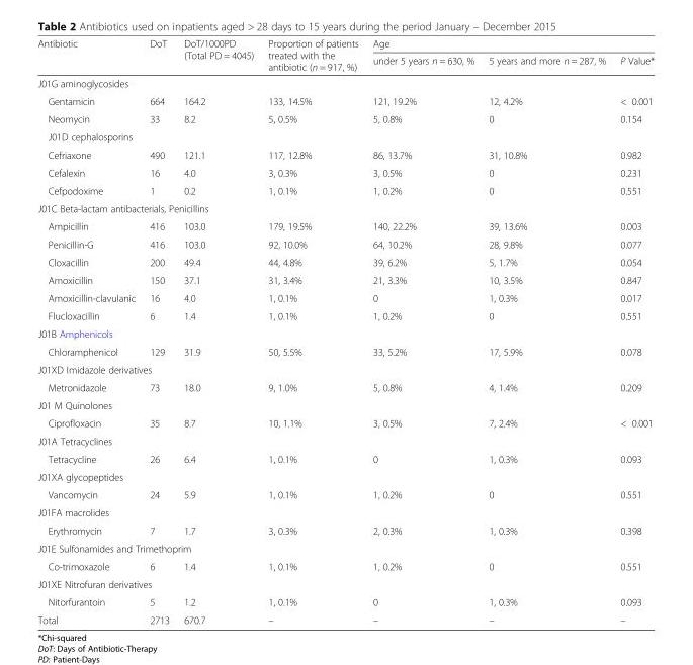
<table><thead><tr><td rowspan="2">Antibiotic</td><td rowspan="2">DoT</td><td rowspan="2">DoT/1000PD (Total PD = 4045)</td><td rowspan="2">Proportion of patients treated with the antibiotic (n = 917, %)</td><td colspan="3">Age</td></tr><tr><td>under 5 years n = 630, %</td><td>5 years and more n = 287, %</td><td>P Value*</td></tr></thead><tbody><tr><td colspan="7">J01G aminoglycosides</td></tr><tr><td>Gentamicin</td><td>664</td><td>164.2</td><td>133, 14.5%</td><td>121, 19.2%</td><td>12, 4.2%</td><td>&lt; 0.001</td></tr><tr><td>Neomycin</td><td>33</td><td>8.2</td><td>5, 0.5%</td><td>5, 0.8%</td><td>0</td><td>0.154</td></tr><tr><td colspan="7">J01D cephalosporins</td></tr><tr><td>Cefriaxone</td><td>490</td><td>121.1</td><td>117, 12.8%</td><td>86, 13.7%</td><td>31, 10.8%</td><td>0.982</td></tr><tr><td>Cefalexin</td><td>16</td><td>4.0</td><td>3, 0.3%</td><td>3, 0.5%</td><td>0</td><td>0.231</td></tr><tr><td>Cefpodoxime</td><td>1</td><td>0.2</td><td>1, 0.1%</td><td>1, 0.2%</td><td>0</td><td>0.551</td></tr><tr><td colspan="7">J01C Beta-lactam antibacterials, Penicillins</td></tr><tr><td>Ampicillin</td><td>416</td><td>103.0</td><td>179, 19.5%</td><td>140, 22.2%</td><td>39, 13.6%</td><td>0.003</td></tr><tr><td>Penicillin-G</td><td>416</td><td>103.0</td><td>92, 10.0%</td><td>64, 10.2%</td><td>28, 9.8%</td><td>0.077</td></tr><tr><td>Cloxacillin</td><td>200</td><td>49.4</td><td>44, 4.8%</td><td>39, 6.2%</td><td>5, 1.7%</td><td>0.054</td></tr><tr><td>Amoxicillin</td><td>150</td><td>37.1</td><td>31, 3.4%</td><td>21, 3.3%</td><td>10, 3.5%</td><td>0.847</td></tr><tr><td>Amoxicillin-clavulanic</td><td>16</td><td>4.0</td><td>1, 0.1%</td><td>0</td><td>1, 0.3%</td><td>0.017</td></tr><tr><td>Flucloxacillin</td><td>6</td><td>1.4</td><td>1, 0.1%</td><td>1, 0.2%</td><td>0</td><td>0.551</td></tr><tr><td colspan="7">J01B Amphenicols</td></tr><tr><td>Chloramphenicol</td><td>129</td><td>31.9</td><td>50, 5.5%</td><td>33, 5.2%</td><td>17, 5.9%</td><td>0.078</td></tr><tr><td colspan="7">J01XD Imidazole derivatives</td></tr><tr><td>Metronidazole</td><td>73</td><td>18.0</td><td>9, 1.0%</td><td>5, 0.8%</td><td>4, 1.4%</td><td>0.209</td></tr><tr><td colspan="7">J01 M Quinolones</td></tr><tr><td>Ciprofloxacin</td><td>35</td><td>8.7</td><td>10, 1.1%</td><td>3, 0.5%</td><td>7, 2.4%</td><td>&lt; 0.001</td></tr><tr><td colspan="7">J01A Tetracyclines</td></tr><tr><td>Tetracycline</td><td>26</td><td>6.4</td><td>1, 0.1%</td><td>0</td><td>1, 0.3%</td><td>0.093</td></tr><tr><td colspan="7">J01XA glycopeptides</td></tr><tr><td>Vancomycin</td><td>24</td><td>5.9</td><td>1, 0.1%</td><td>1, 0.2%</td><td>0</td><td>0.551</td></tr><tr><td colspan="7">J01FA macrolides</td></tr><tr><td>Erythromycin</td><td>7</td><td>1.7</td><td>3, 0.3%</td><td>2, 0.3%</td><td>1, 0.3%</td><td>0.398</td></tr><tr><td colspan="7">J01E Sulfonamides and Trimethoprim</td></tr><tr><td>Co-trimoxazole</td><td>6</td><td>1.4</td><td>1, 0.1%</td><td>1, 0.2%</td><td>0</td><td>0.551</td></tr><tr><td colspan="7">J01XE Nitrofuran derivatives</td></tr><tr><td>Nitorfurantoin</td><td>5</td><td>1.2</td><td>1, 0.1%</td><td>0</td><td>1, 0.3%</td><td>0.093</td></tr><tr><td>Total</td><td>2713</td><td>670.7</td><td>–</td><td>–</td><td>–</td><td>–</td></tr></tbody></table>